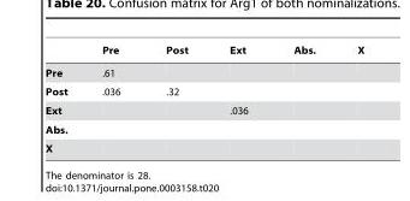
<table><thead><tr><td></td><td>Pre</td><td>Post</td><td>Ext</td><td>Abs.</td><td>X</td></tr></thead><tbody><tr><td>Pre</td><td>.61</td><td></td><td></td><td></td><td></td></tr><tr><td>Post</td><td>.036</td><td>.32</td><td></td><td></td><td></td></tr><tr><td>Ext</td><td></td><td></td><td>.036</td><td></td><td></td></tr><tr><td colspan="6">Abs.</td></tr><tr><td>X</td><td></td><td></td><td></td><td></td><td></td></tr></tbody></table>